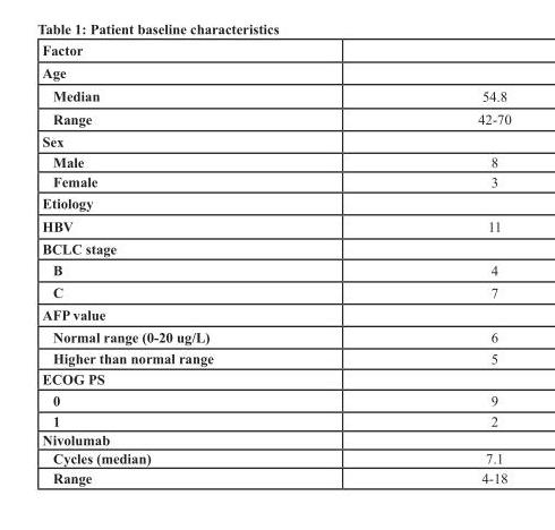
<table><thead><tr><td>Factor</td><td></td></tr></thead><tbody><tr><td colspan="2">Age</td></tr><tr><td>Median</td><td>54.8</td></tr><tr><td>Range</td><td>42-70</td></tr><tr><td colspan="2">Sex</td></tr><tr><td>Male</td><td>8</td></tr><tr><td>Female</td><td>3</td></tr><tr><td colspan="2">Etiology</td></tr><tr><td>HBV</td><td>11</td></tr><tr><td colspan="2">BCLC stage</td></tr><tr><td>B</td><td>4</td></tr><tr><td>C</td><td>7</td></tr><tr><td colspan="2">AFP value</td></tr><tr><td>Normal range (0-20 ug/L)</td><td>6</td></tr><tr><td>Higher than normal range</td><td>5</td></tr><tr><td colspan="2">ECOG PS</td></tr><tr><td>0</td><td>9</td></tr><tr><td>1</td><td>2</td></tr><tr><td colspan="2">Nivolumab</td></tr><tr><td>Cycles (median)</td><td>7.1</td></tr><tr><td>Range</td><td>4-18</td></tr></tbody></table>